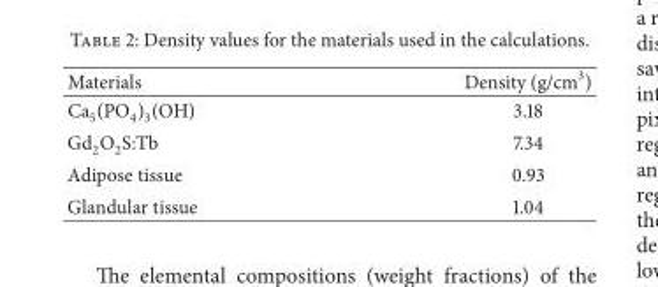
<table><thead><tr><td>Materials</td><td>Density (g/cm<sup>3</sup>)</td></tr></thead><tbody><tr><td>Ca<sub>5</sub>(PO<sub>4</sub>)<sub>3</sub>(OH)</td><td>3.18</td></tr><tr><td>Gd<sub>2</sub>O<sub>2</sub>S:Tb</td><td>7.34</td></tr><tr><td>Adipose tissue</td><td>0.93</td></tr><tr><td>Glandular tissue</td><td>1.04</td></tr></tbody></table>